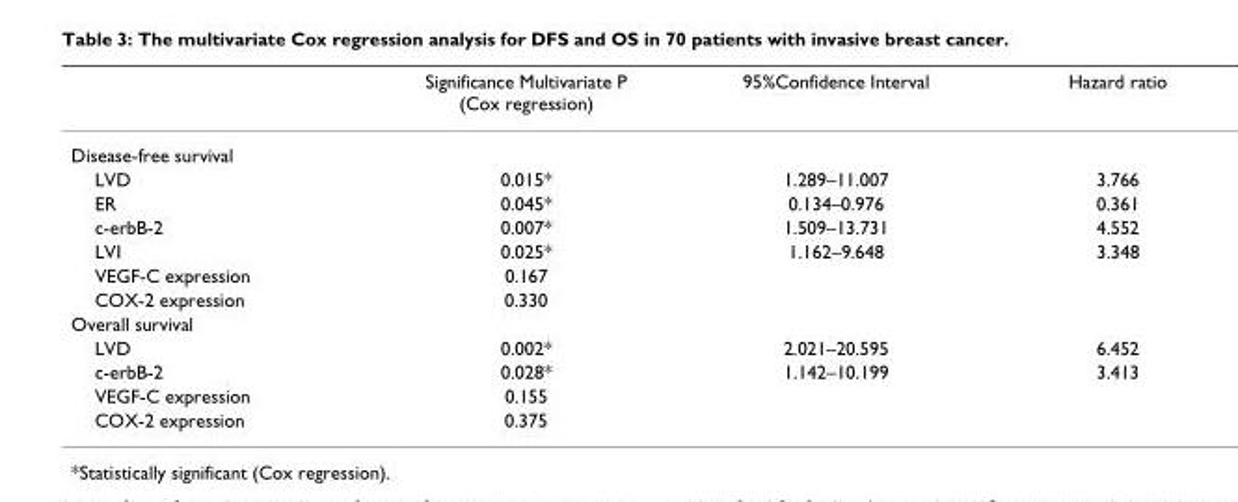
<table><thead><tr><td></td><td>Significance Multivariate P (Cox regression)</td><td>95%Confidence Interval</td><td>Hazard ratio</td></tr></thead><tbody><tr><td colspan="4">Disease-free survival</td></tr><tr><td>LVD</td><td>0.015*</td><td>1.289–11.007</td><td>3.766</td></tr><tr><td>ER</td><td>0.045*</td><td>0.134–0.976</td><td>0.361</td></tr><tr><td>c-erbB-2</td><td>0.007*</td><td>1.509–13.731</td><td>4.552</td></tr><tr><td>LVI</td><td>0.025*</td><td>1.162–9.648</td><td>3.348</td></tr><tr><td>VEGF-C expression</td><td>0.167</td><td></td><td></td></tr><tr><td>COX-2 expression</td><td>0.330</td><td></td><td></td></tr><tr><td colspan="4">Overall survival</td></tr><tr><td>LVD</td><td>0.002*</td><td>2.021–20.595</td><td>6.452</td></tr><tr><td>c-erbB-2</td><td>0.028*</td><td>1.142–10.199</td><td>3.413</td></tr><tr><td>VEGF-C expression</td><td>0.155</td><td></td><td></td></tr><tr><td>COX-2 expression</td><td>0.375</td><td></td><td></td></tr></tbody></table>